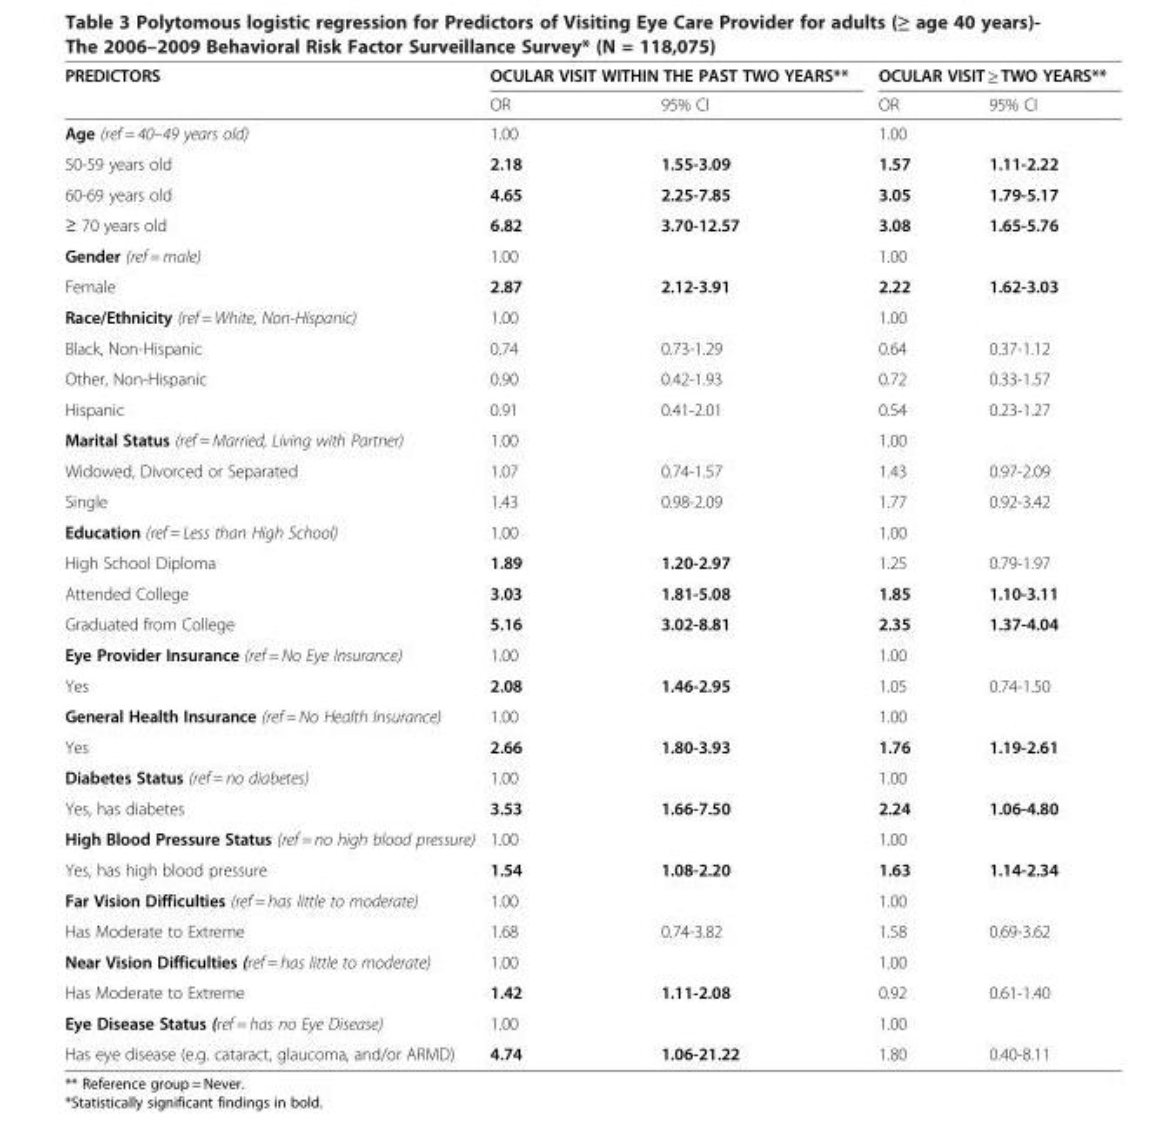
<table><thead><tr><td rowspan="2">PREDICTORS</td><td colspan="2">OCULAR VISIT WITHIN THE PAST TWO YEARS**</td><td colspan="2">OCULAR VISIT ≥ TWO YEARS**</td></tr><tr><td>OR</td><td>95% CI</td><td>OR</td><td>95% CI</td></tr></thead><tbody><tr><td>Age (ref = 40–49 years old)</td><td>1.00</td><td></td><td>1.00</td><td></td></tr><tr><td>50-59 years old</td><td>2.18</td><td>1.55-3.09</td><td>1.57</td><td>1.11-2.22</td></tr><tr><td>60-69 years old</td><td>4.65</td><td>2.25-7.85</td><td>3.05</td><td>1.79-5.17</td></tr><tr><td>≥ 70 years old</td><td>6.82</td><td>3.70-12.57</td><td>3.08</td><td>1.65-5.76</td></tr><tr><td>Gender (ref = male)</td><td>1.00</td><td></td><td>1.00</td><td></td></tr><tr><td>Female</td><td>2.87</td><td>2.12-3.91</td><td>2.22</td><td>1.62-3.03</td></tr><tr><td>Race/Ethnicity (ref = White, Non-Hispanic)</td><td>1.00</td><td></td><td>1.00</td><td></td></tr><tr><td>Black, Non-Hispanic</td><td>0.74</td><td>0.73-1.29</td><td>0.64</td><td>0.37-1.12</td></tr><tr><td>Other, Non-Hispanic</td><td>0.90</td><td>0.42-1.93</td><td>0.72</td><td>0.33-1.57</td></tr><tr><td>Hispanic</td><td>0.91</td><td>0.41-2.01</td><td>0.54</td><td>0.23-1.27</td></tr><tr><td>Marital Status (ref = Married, Living with Partner)</td><td>1.00</td><td></td><td>1.00</td><td></td></tr><tr><td>Widowed, Divorced or Separated</td><td>1.07</td><td>0.74-1.57</td><td>1.43</td><td>0.97-2.09</td></tr><tr><td>Single</td><td>1.43</td><td>0.98-2.09</td><td>1.77</td><td>0.92-3.42</td></tr><tr><td>Education (ref = Less than High School)</td><td>1.00</td><td></td><td>1.00</td><td></td></tr><tr><td>High School Diploma</td><td>1.89</td><td>1.20-2.97</td><td>1.25</td><td>0.79-1.97</td></tr><tr><td>Attended College</td><td>3.03</td><td>1.81-5.08</td><td>1.85</td><td>1.10-3.11</td></tr><tr><td>Graduated from College</td><td>5.16</td><td>3.02-8.81</td><td>2.35</td><td>1.37-4.04</td></tr><tr><td>Eye Provider Insurance (ref = No Eye Insurance)</td><td>1.00</td><td></td><td>1.00</td><td></td></tr><tr><td>Yes</td><td>2.08</td><td>1.46-2.95</td><td>1.05</td><td>0.74-1.50</td></tr><tr><td>General Health Insurance (ref = No Health Insurance)</td><td>1.00</td><td></td><td>1.00</td><td></td></tr><tr><td>Yes</td><td>2.66</td><td>1.80-3.93</td><td>1.76</td><td>1.19-2.61</td></tr><tr><td>Diabetes Status (ref = no diabetes)</td><td>1.00</td><td></td><td>1.00</td><td></td></tr><tr><td>Yes, has diabetes</td><td>3.53</td><td>1.66-7.50</td><td>2.24</td><td>1.06-4.80</td></tr><tr><td>High Blood Pressure Status (ref = no high blood pressure)</td><td>1.00</td><td></td><td>1.00</td><td></td></tr><tr><td>Yes, has high blood pressure</td><td>1.54</td><td>1.08-2.20</td><td>1.63</td><td>1.14-2.34</td></tr><tr><td>Far Vision Difficulties (ref = has little to moderate)</td><td>1.00</td><td></td><td>1.00</td><td></td></tr><tr><td>Has Moderate to Extreme</td><td>1.68</td><td>0.74-3.82</td><td>1.58</td><td>0.69-3.62</td></tr><tr><td>Near Vision Difficulties (ref = has little to moderate)</td><td>1.00</td><td></td><td>1.00</td><td></td></tr><tr><td>Has Moderate to Extreme</td><td>1.42</td><td>1.11-2.08</td><td>0.92</td><td>0.61-1.40</td></tr><tr><td>Eye Disease Status (ref = has no Eye Disease)</td><td>1.00</td><td></td><td>1.00</td><td></td></tr><tr><td>Has eye disease (e.g. cataract, glaucoma, and/or ARMD)</td><td>4.74</td><td>1.06-21.22</td><td>1.80</td><td>0.40-8.11</td></tr></tbody></table>